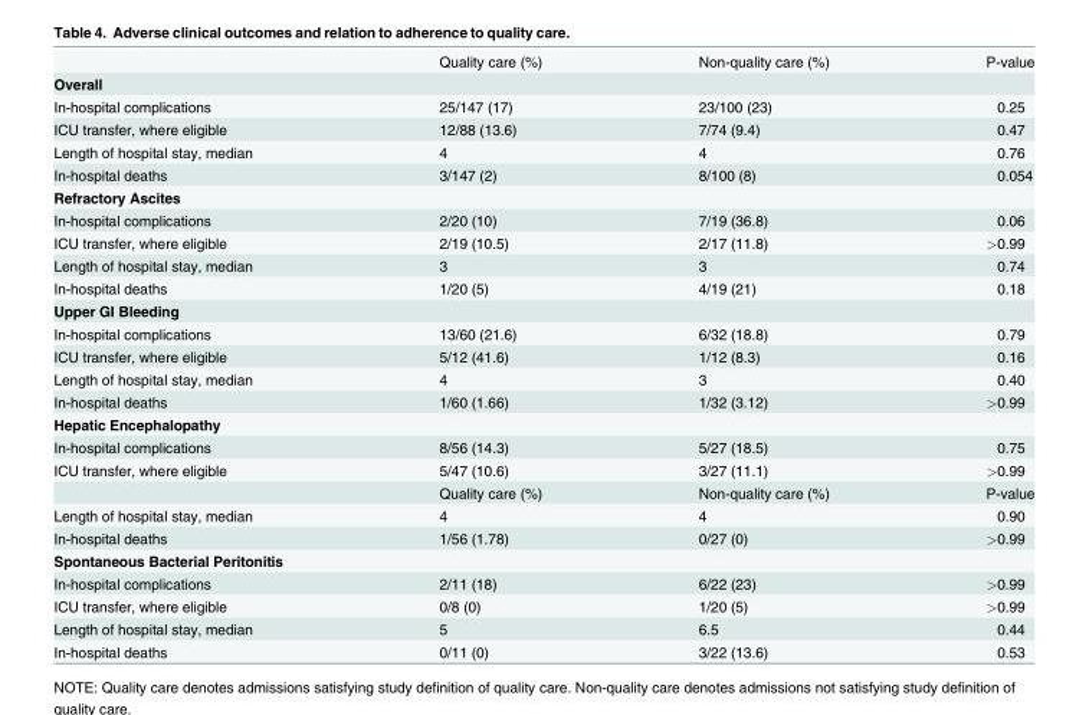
<table><thead><tr><td></td><td>Quality care (%)</td><td>Non-quality care (%)</td><td>P-value</td></tr></thead><tbody><tr><td colspan="4">Overall</td></tr><tr><td>In-hospital complications</td><td>25/147 (17)</td><td>23/100 (23)</td><td>0.25</td></tr><tr><td>ICU transfer, where eligible</td><td>12/88 (13.6)</td><td>7/74 (9.4)</td><td>0.47</td></tr><tr><td>Length of hospital stay, median</td><td>4</td><td>4</td><td>0.76</td></tr><tr><td>In-hospital deaths</td><td>3/147 (2)</td><td>8/100 (8)</td><td>0.054</td></tr><tr><td colspan="4">Refractory Ascites</td></tr><tr><td>In-hospital complications</td><td>2/20 (10)</td><td>7/19 (36.8)</td><td>0.06</td></tr><tr><td>ICU transfer, where eligible</td><td>2/19 (10.5)</td><td>2/17 (11.8)</td><td>&gt;0.99</td></tr><tr><td>Length of hospital stay, median</td><td>3</td><td>3</td><td>0.74</td></tr><tr><td>In-hospital deaths</td><td>1/20 (5)</td><td>4/19 (21)</td><td>0.18</td></tr><tr><td colspan="4">Upper GI Bleeding</td></tr><tr><td>In-hospital complications</td><td>13/60 (21.6)</td><td>6/32 (18.8)</td><td>0.79</td></tr><tr><td>ICU transfer, where eligible</td><td>5/12 (41.6)</td><td>1/12 (8.3)</td><td>0.16</td></tr><tr><td>Length of hospital stay, median</td><td>4</td><td>3</td><td>0.40</td></tr><tr><td>In-hospital deaths</td><td>1/60 (1.66)</td><td>1/32 (3.12)</td><td>&gt;0.99</td></tr><tr><td colspan="4">Hepatic Encephalopathy</td></tr><tr><td>In-hospital complications</td><td>8/56 (14.3)</td><td>5/27 (18.5)</td><td>0.75</td></tr><tr><td rowspan="2">ICU transfer, where eligible</td><td>5/47 (10.6)</td><td>3/27 (11.1)</td><td>&gt;0.99</td></tr><tr><td>Quality care (%)</td><td>Non-quality care (%)</td><td>P-value</td></tr><tr><td>Length of hospital stay, median</td><td>4</td><td>4</td><td>0.90</td></tr><tr><td>In-hospital deaths</td><td>1/56 (1.78)</td><td>0/27 (0)</td><td>&gt;0.99</td></tr><tr><td colspan="4">Spontaneous Bacterial Peritonitis</td></tr><tr><td>In-hospital complications</td><td>2/11 (18)</td><td>6/22 (23)</td><td>&gt;0.99</td></tr><tr><td>ICU transfer, where eligible</td><td>0/8 (0)</td><td>1/20 (5)</td><td>&gt;0.99</td></tr><tr><td>Length of hospital stay, median</td><td>5</td><td>6.5</td><td>0.44</td></tr><tr><td>In-hospital deaths</td><td>0/11 (0)</td><td>3/22 (13.6)</td><td>0.53</td></tr></tbody></table>